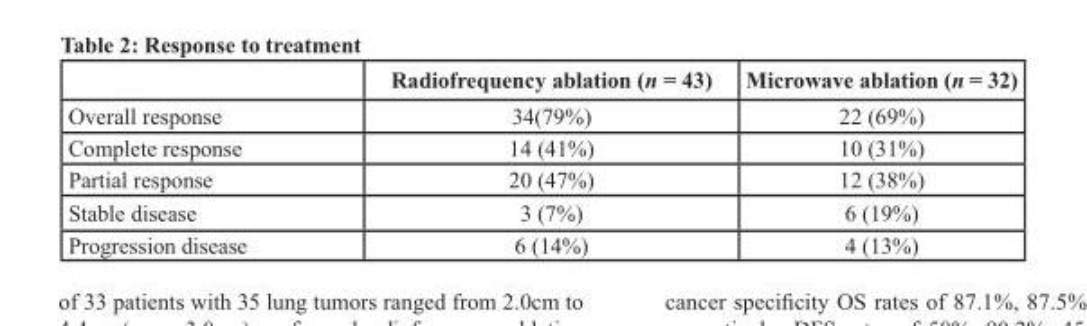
<table><thead><tr><td></td><td>Radiofrequency ablation (n = 43)</td><td>Microwave ablation (n = 32)</td></tr></thead><tbody><tr><td>Overall response</td><td>34(79%)</td><td>22 (69%)</td></tr><tr><td>Complete response</td><td>14 (41%)</td><td>10 (31%)</td></tr><tr><td>Partial response</td><td>20 (47%)</td><td>12 (38%)</td></tr><tr><td>Stable disease</td><td>3 (7%)</td><td>6 (19%)</td></tr><tr><td>Progression disease</td><td>6 (14%)</td><td>4 (13%)</td></tr></tbody></table>